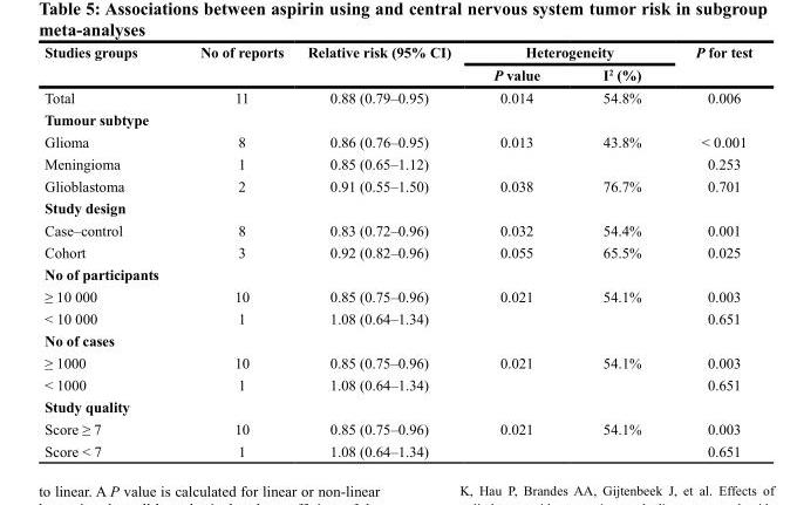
<table><thead><tr><td rowspan="2">Studies groups</td><td rowspan="2">No of reports</td><td rowspan="2">Relative risk (95% CI)</td><td colspan="2">Heterogeneity</td><td rowspan="2">P for test</td></tr><tr><td>P value</td><td>I<sup>2</sup> (%)</td></tr></thead><tbody><tr><td>Total</td><td>11</td><td>0.88 (0.79–0.95)</td><td>0.014</td><td>54.8%</td><td>0.006</td></tr><tr><td colspan="6">Tumour subtype</td></tr><tr><td>Glioma</td><td>8</td><td>0.86 (0.76–0.95)</td><td>0.013</td><td>43.8%</td><td>&lt; 0.001</td></tr><tr><td>Meningioma</td><td>1</td><td>0.85 (0.65–1.12)</td><td></td><td></td><td>0.253</td></tr><tr><td>Glioblastoma</td><td>2</td><td>0.91 (0.55–1.50)</td><td>0.038</td><td>76.7%</td><td>0.701</td></tr><tr><td colspan="6">Study design</td></tr><tr><td>Case–control</td><td>8</td><td>0.83 (0.72–0.96)</td><td>0.032</td><td>54.4%</td><td>0.001</td></tr><tr><td>Cohort</td><td>3</td><td>0.92 (0.82–0.96)</td><td>0.055</td><td>65.5%</td><td>0.025</td></tr><tr><td colspan="6">No of participants</td></tr><tr><td>≥ 10 000</td><td>10</td><td>0.85 (0.75–0.96)</td><td>0.021</td><td>54.1%</td><td>0.003</td></tr><tr><td>&lt; 10 000</td><td>1</td><td>1.08 (0.64–1.34)</td><td></td><td></td><td>0.651</td></tr><tr><td colspan="6">No of cases</td></tr><tr><td>≥ 1000</td><td>10</td><td>0.85 (0.75–0.96)</td><td>0.021</td><td>54.1%</td><td>0.003</td></tr><tr><td>&lt; 1000</td><td>1</td><td>1.08 (0.64–1.34)</td><td></td><td></td><td>0.651</td></tr><tr><td colspan="6">Study quality</td></tr><tr><td>Score ≥ 7</td><td>10</td><td>0.85 (0.75–0.96)</td><td>0.021</td><td>54.1%</td><td>0.003</td></tr><tr><td>Score &lt; 7</td><td>1</td><td>1.08 (0.64–1.34)</td><td></td><td></td><td>0.651</td></tr></tbody></table>